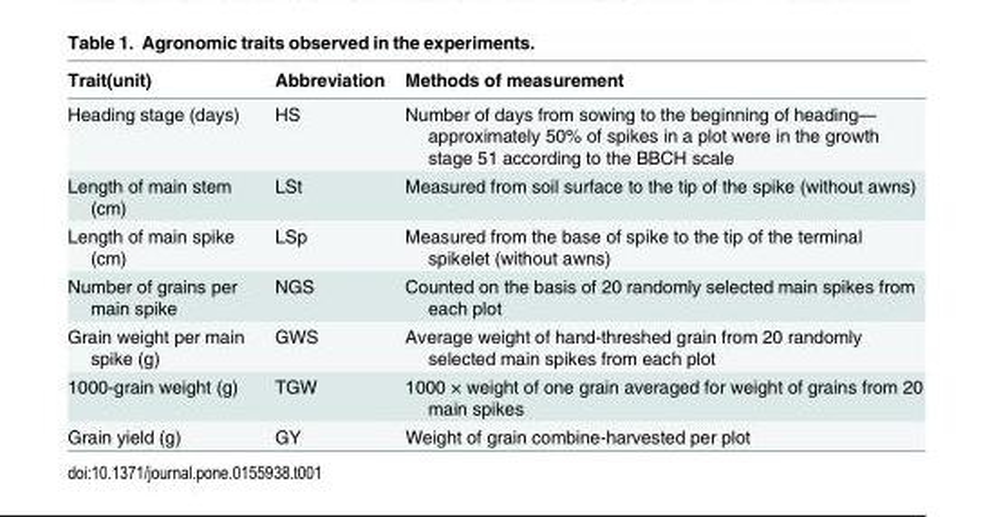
<table><thead><tr><td>Trait(unit)</td><td>Abbreviation</td><td>Methods of measurement</td></tr></thead><tbody><tr><td>Heading stage (days)</td><td>HS</td><td>Number of days from sowing to the beginning of heading— approximately 50% of spikes in a plot were in the growth stage 51 according to the BBCH scale</td></tr><tr><td>Length of main stem (cm)</td><td>LSt</td><td>Measured from soil surface to the tip of the spike (without awns)</td></tr><tr><td>Length of main spike (cm)</td><td>LSp</td><td>Measured from the base of spike to the tip of the terminal spikelet (without awns)</td></tr><tr><td>Number of grains per main spike</td><td>NGS</td><td>Counted on the basis of 20 randomly selected main spikes from each plot</td></tr><tr><td>Grain weight per main spike (g)</td><td>GWS</td><td>Average weight of hand-threshed grain from 20 randomly selected main spikes from each plot</td></tr><tr><td>1000-grain weight (g)</td><td>TGW</td><td>1000 × weight of one grain averaged for weight of grains from 20 main spikes</td></tr><tr><td>Grain yield (g)</td><td>GY</td><td>Weight of grain combine-harvested per plot</td></tr></tbody></table>